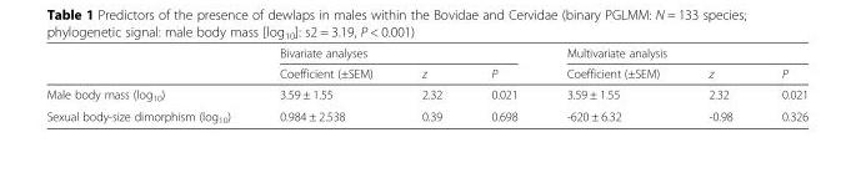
<table><thead><tr><td rowspan="2"></td><td colspan="3">Bivariate analyses</td><td colspan="3">Multivariate analysis</td></tr><tr><td>Coefficient (±SEM)</td><td>z</td><td>P</td><td>Coefficient (±SEM)</td><td>z</td><td>P</td></tr></thead><tbody><tr><td>Male body mass (log<sub>10</sub>)</td><td>3.59 ± 1.55</td><td>2.32</td><td>0.021</td><td>3.59 ± 1.55</td><td>2.32</td><td>0.021</td></tr><tr><td>Sexual body-size dimorphism (log<sub>10</sub>)</td><td>0.984 ± 2.538</td><td>0.39</td><td>0.698</td><td>-620 ± 6.32</td><td>-0.98</td><td>0.326</td></tr></tbody></table>